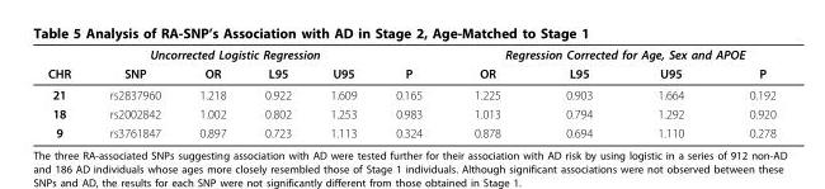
<table><thead><tr><td colspan="6">Uncorrected Logistic Regression</td><td colspan="4">Regression Corrected for Age, Sex and APOE</td></tr><tr><td>CHR</td><td>SNP</td><td>OR</td><td>L95</td><td>U95</td><td>P</td><td>OR</td><td>L95</td><td>U95</td><td>P</td></tr></thead><tbody><tr><td>21</td><td>rs2837960</td><td>1.218</td><td>0.922</td><td>1.609</td><td>0.165</td><td>1.225</td><td>0.903</td><td>1.664</td><td>0.192</td></tr><tr><td>18</td><td>rs2002842</td><td>1.002</td><td>0.802</td><td>1.253</td><td>0.983</td><td>1.013</td><td>0.794</td><td>1.292</td><td>0.920</td></tr><tr><td>9</td><td>rs3761847</td><td>0.897</td><td>0.723</td><td>1.113</td><td>0.324</td><td>0.878</td><td>0.694</td><td>1.110</td><td>0.278</td></tr></tbody></table>